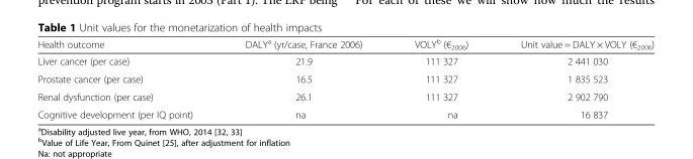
<table><thead><tr><td>Health outcome</td><td>DALY<sup>a</sup> (yr/case, France 2006)</td><td>VOLY<sup>b</sup> (€<sub>2006</sub>)</td><td>Unit value = DALY × VOLY (€<sub>2006</sub>)</td></tr></thead><tbody><tr><td>Liver cancer (per case)</td><td>21.9</td><td>111 327</td><td>2 441 030</td></tr><tr><td>Prostate cancer (per case)</td><td>16.5</td><td>111 327</td><td>1 835 523</td></tr><tr><td>Renal dysfunction (per case)</td><td>26.1</td><td>111 327</td><td>2 902 790</td></tr><tr><td>Cognitive development (per IQ point)</td><td>na</td><td>na</td><td>16 837</td></tr></tbody></table>